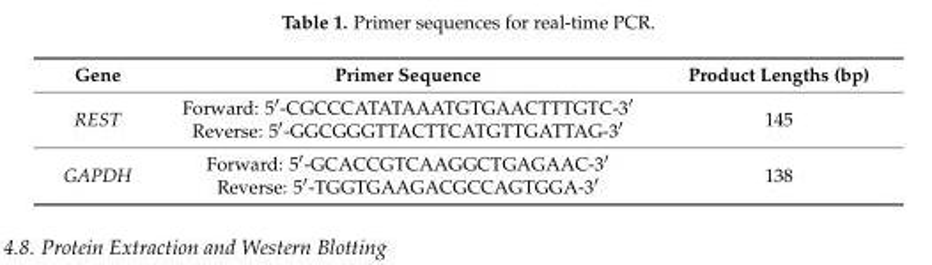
<table><thead><tr><td>Gene</td><td>Primer Sequence</td><td>Product Lengths (bp)</td></tr></thead><tbody><tr><td>REST</td><td>Forward: 5′-CGCCCATATAAATGTGAACTTTGTC-3′ Reverse: 5′-GGCGGGTTACTTCATGTTGATTAG-3′</td><td>145</td></tr><tr><td>GAPDH</td><td>Forward: 5′-GCACCGTCAAGGCTGAGAAC-3′ Reverse: 5′-TGGTGAAGACGCCAGTGGA-3′</td><td>138</td></tr></tbody></table>